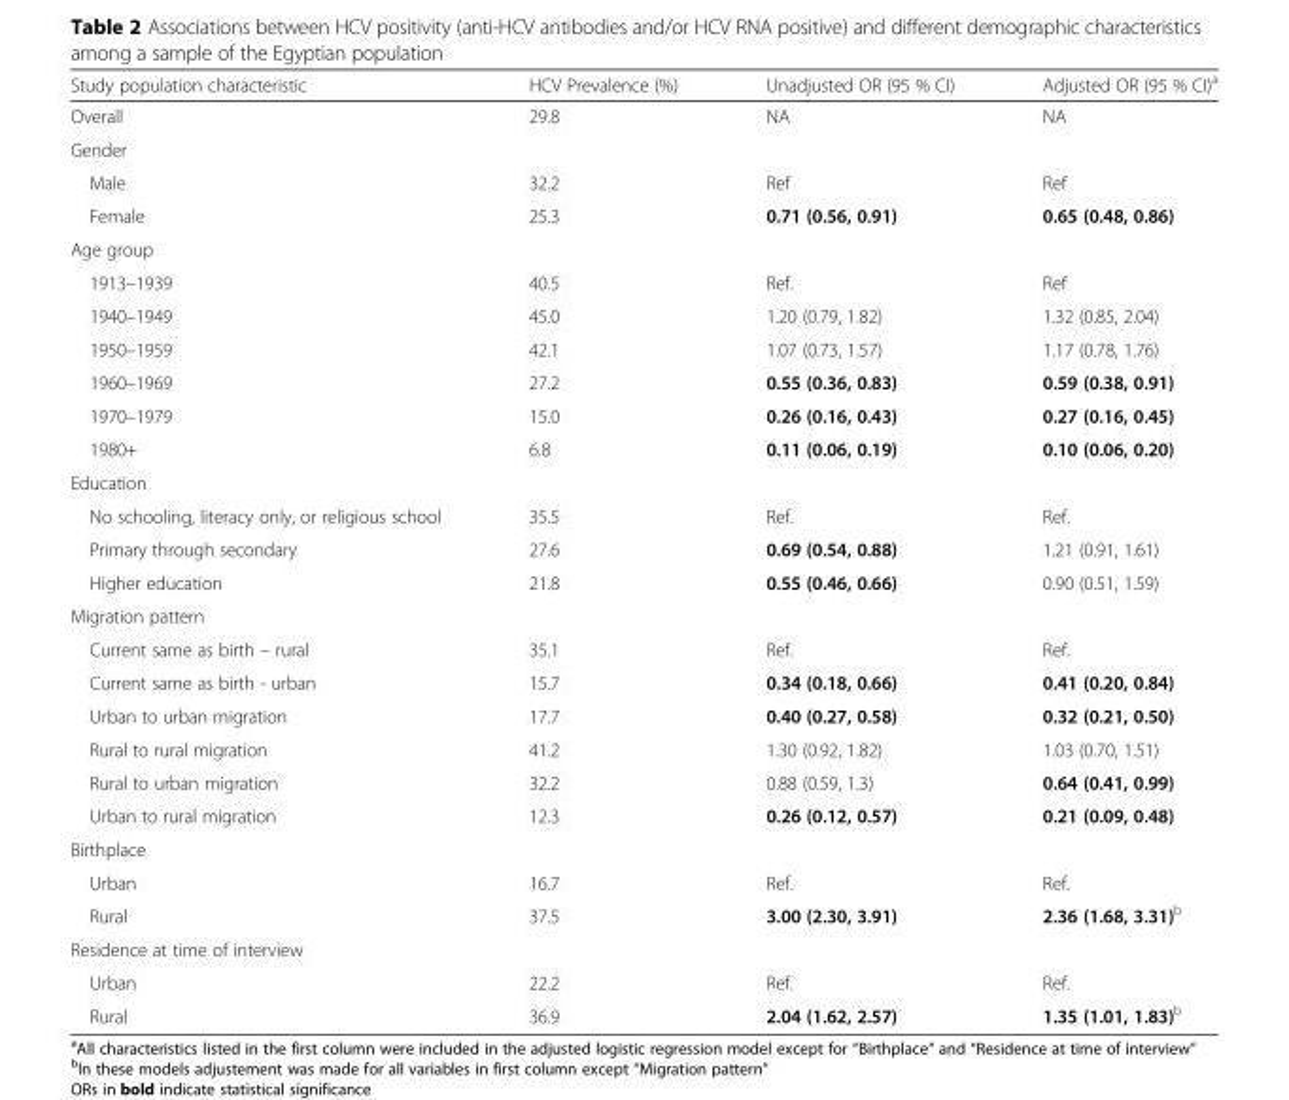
<table><thead><tr><td>Study population characteristic</td><td>HCV Prevalence (%)</td><td>Unadjusted OR (95 % CI)</td><td>Adjusted OR (95 % CI)<sup>a</sup></td></tr></thead><tbody><tr><td>Overall</td><td>29.8</td><td>NA</td><td>NA</td></tr><tr><td colspan="4">Gender</td></tr><tr><td>Male</td><td>32.2</td><td>Ref</td><td>Ref</td></tr><tr><td>Female</td><td>25.3</td><td>0.71 (0.56, 0.91)</td><td>0.65 (0.48, 0.86)</td></tr><tr><td colspan="4">Age group</td></tr><tr><td>1913–1939</td><td>40.5</td><td>Ref.</td><td>Ref</td></tr><tr><td>1940–1949</td><td>45.0</td><td>1.20 (0.79, 1.82)</td><td>1.32 (0.85, 2.04)</td></tr><tr><td>1950–1959</td><td>42.1</td><td>1.07 (0.73, 1.57)</td><td>1.17 (0.78, 1.76)</td></tr><tr><td>1960–1969</td><td>27.2</td><td>0.55 (0.36, 0.83)</td><td>0.59 (0.38, 0.91)</td></tr><tr><td>1970–1979</td><td>15.0</td><td>0.26 (0.16, 0.43)</td><td>0.27 (0.16, 0.45)</td></tr><tr><td>1980+</td><td>6.8</td><td>0.11 (0.06, 0.19)</td><td>0.10 (0.06, 0.20)</td></tr><tr><td colspan="4">Education</td></tr><tr><td>No schooling, literacy only, or religious school</td><td>35.5</td><td>Ref.</td><td>Ref.</td></tr><tr><td>Primary through secondary</td><td>27.6</td><td>0.69 (0.54, 0.88)</td><td>1.21 (0.91, 1.61)</td></tr><tr><td>Higher education</td><td>21.8</td><td>0.55 (0.46, 0.66)</td><td>0.90 (0.51, 1.59)</td></tr><tr><td colspan="4">Migration pattern</td></tr><tr><td>Current same as birth – rural</td><td>35.1</td><td>Ref.</td><td>Ref.</td></tr><tr><td>Current same as birth - urban</td><td>15.7</td><td>0.34 (0.18, 0.66)</td><td>0.41 (0.20, 0.84)</td></tr><tr><td>Urban to urban migration</td><td>17.7</td><td>0.40 (0.27, 0.58)</td><td>0.32 (0.21, 0.50)</td></tr><tr><td>Rural to rural migration</td><td>41.2</td><td>1.30 (0.92, 1.82)</td><td>1.03 (0.70, 1.51)</td></tr><tr><td>Rural to urban migration</td><td>32.2</td><td>0.88 (0.59, 1.3)</td><td>0.64 (0.41, 0.99)</td></tr><tr><td>Urban to rural migration</td><td>12.3</td><td>0.26 (0.12, 0.57)</td><td>0.21 (0.09, 0.48)</td></tr><tr><td colspan="4">Birthplace</td></tr><tr><td>Urban</td><td>16.7</td><td>Ref.</td><td>Ref.</td></tr><tr><td>Rural</td><td>37.5</td><td>3.00 (2.30, 3.91)</td><td>2.36 (1.68, 3.31)<sup>b</sup></td></tr><tr><td colspan="4">Residence at time of interview</td></tr><tr><td>Urban</td><td>22.2</td><td>Ref.</td><td>Ref.</td></tr><tr><td>Rural</td><td>36.9</td><td>2.04 (1.62, 2.57)</td><td>1.35 (1.01, 1.83)<sup>b</sup></td></tr></tbody></table>